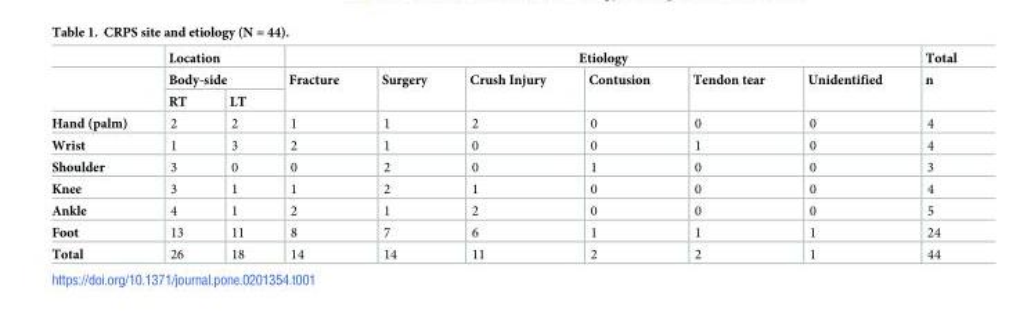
<table><thead><tr><td rowspan="3"></td><td rowspan="2" colspan="2">Location Body-side</td><td colspan="6">Etiology</td><td rowspan="3">Total n</td></tr><tr><td rowspan="2">Fracture</td><td rowspan="2">Surgery</td><td rowspan="2">Crush Injury</td><td rowspan="2">Contusion</td><td rowspan="2">Tendon tear</td><td rowspan="2">Unidentified</td></tr><tr><td>RT</td><td>LT</td></tr></thead><tbody><tr><td>Hand (palm)</td><td>2</td><td>2</td><td>1</td><td>1</td><td>2</td><td>0</td><td>0</td><td>0</td><td>4</td></tr><tr><td>Wrist</td><td>1</td><td>3</td><td>2</td><td>1</td><td>0</td><td>0</td><td>1</td><td>0</td><td>4</td></tr><tr><td>Shoulder</td><td>3</td><td>0</td><td>0</td><td>2</td><td>0</td><td>1</td><td>0</td><td>0</td><td>3</td></tr><tr><td>Knee</td><td>3</td><td>1</td><td>1</td><td>2</td><td>1</td><td>0</td><td>0</td><td>0</td><td>4</td></tr><tr><td>Ankle</td><td>4</td><td>1</td><td>2</td><td>1</td><td>2</td><td>0</td><td>0</td><td>0</td><td>5</td></tr><tr><td>Foot</td><td>13</td><td>11</td><td>8</td><td>7</td><td>6</td><td>1</td><td>1</td><td>1</td><td>24</td></tr><tr><td>Total</td><td>26</td><td>18</td><td>14</td><td>14</td><td>11</td><td>2</td><td>2</td><td>1</td><td>44</td></tr></tbody></table>